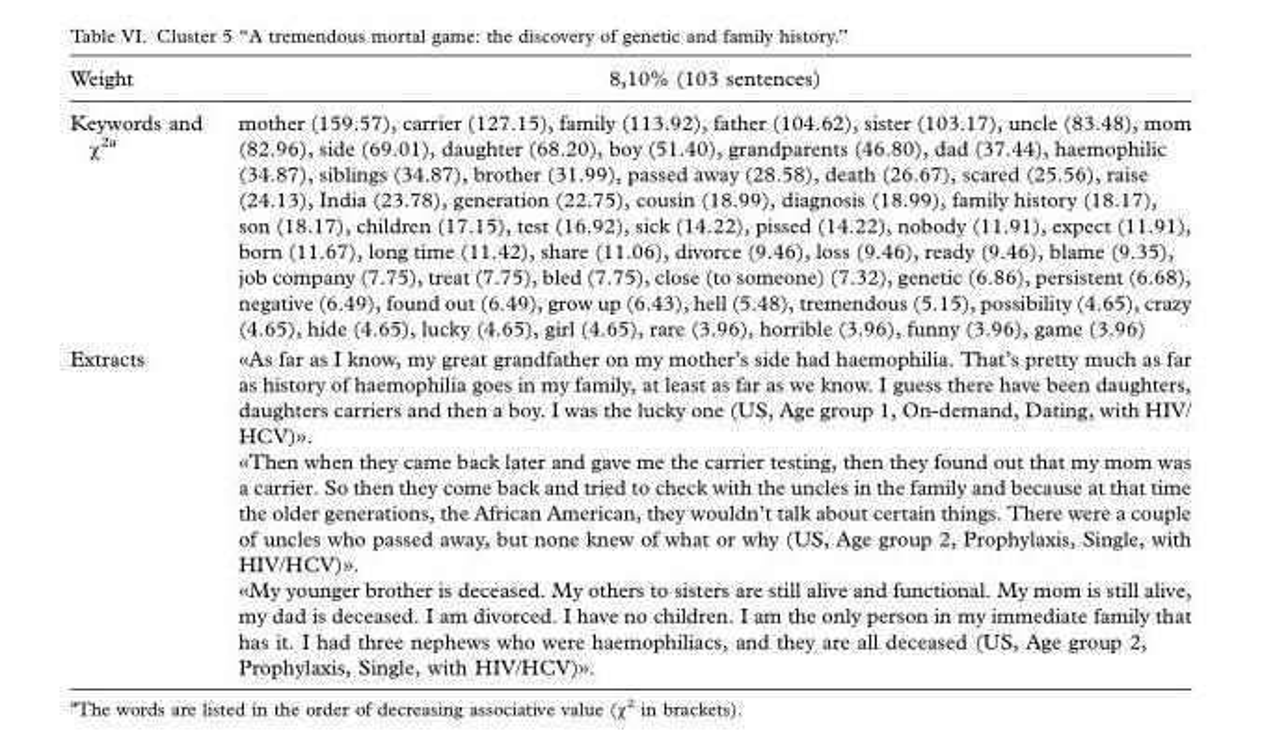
<table><thead><tr><td>Weight</td><td>8,10% (103 sentences)</td></tr></thead><tbody><tr><td>Keywords and χ<sup>2</sup>a</td><td>mother (159.57), carrier (127.15), family (113.92), father (104.62), sister (103.17), uncle (83.48), mom (82.96), side (69.01), daughter (68.20), boy (51.40), grandparents (46.80), dad (37.44), haemophilic (34.87), siblings (34.87), brother (31.99), passed away (28.58), death (26.67), scared (25.56), raise (24.13), India (23.78), generation (22.75), cousin (18.99), diagnosis (18.99), family history (18.17), son (18.17), children (17.15), test (16.92), sick (14.22), pissed (14.22), nobody (11.91), expect (11.91), born (11.67), long time (11.42), share (11.06), divorce (9.46), loss (9.46), ready (9.46), blame (9.35), job company (7.75), treat (7.75), bled (7.75), close (to someone) (7.32), genetic (6.86), persistent (6.68), negative (6.49), found out (6.49), grow up (6.43), hell (5.48), tremendous (5.15), possibility (4.65), crazy (4.65), hide (4.65), lucky (4.65), girl (4.65), rare (3.96), horrible (3.96), funny (3.96), game (3.96)</td></tr><tr><td>Extracts</td><td>«As far as I know, my great grandfather on my mother’s side had haemophilia. That’s pretty much as far as history of haemophilia goes in my family, at least as far as we know. I guess there have been daughters, daughters carriers and then a boy. I was the lucky one (US, Age group 1, On-demand, Dating, with HIV/ HCV)». «Then when they came back later and gave me the carrier testing, then they found out that my mom was a carrier. So then they come back and tried to check with the uncles in the family and because at that time the older generations, the African American, they wouldn’t talk about certain things. There were a couple of uncles who passed away, but none knew of what or why (US, Age group 2, Prophylaxis, Single, with HIV/HCV)». «My younger brother is deceased. My others to sisters are still alive and functional. My mom is still alive, my dad is deceased. I am divorced. I have no children. I am the only person in my immediate family that has it. I had three nephews who were haemophiliacs, and they are all deceased (US, Age group 2, Prophylaxis, Single, with HIV/HCV)».</td></tr></tbody></table>